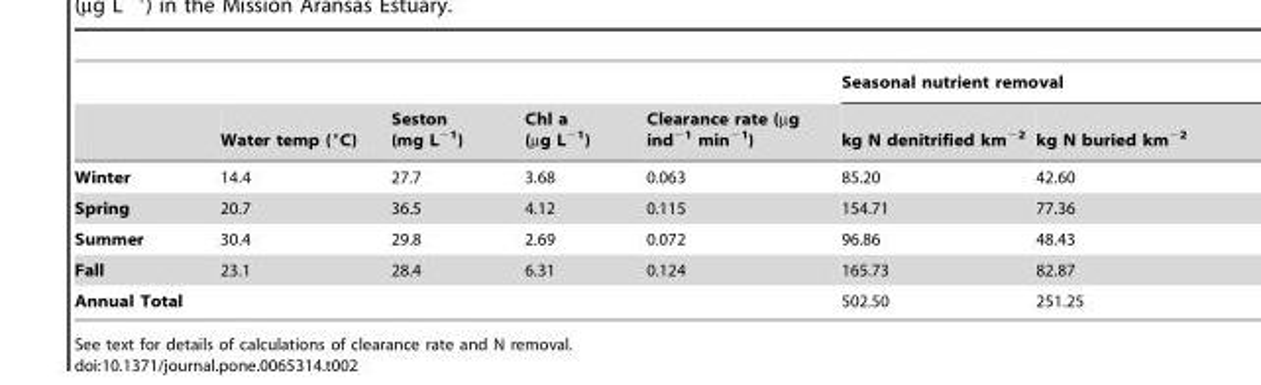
<table><thead><tr><td rowspan="2"></td><td rowspan="2">Water temp (°C)</td><td rowspan="2">Seston (mg L<sup>−1</sup>)</td><td rowspan="2">Chl a (µg L<sup>−1</sup>)</td><td rowspan="2">Clearance rate (µg ind<sup>−1</sup> min<sup>−1</sup>)</td><td colspan="2">Seasonal nutrient removal</td></tr><tr><td>kg N denitrified km<sup>−2</sup></td><td>kg N buried km<sup>−2</sup></td></tr></thead><tbody><tr><td>Winter</td><td>14.4</td><td>27.7</td><td>3.68</td><td>0.063</td><td>85.20</td><td>42.60</td></tr><tr><td>Spring</td><td>20.7</td><td>36.5</td><td>4.12</td><td>0.115</td><td>154.71</td><td>77.36</td></tr><tr><td>Summer</td><td>30.4</td><td>29.8</td><td>2.69</td><td>0.072</td><td>96.86</td><td>48.43</td></tr><tr><td>Fall</td><td>23.1</td><td>28.4</td><td>6.31</td><td>0.124</td><td>165.73</td><td>82.87</td></tr><tr><td colspan="5">Annual Total</td><td>502.50</td><td>251.25</td></tr></tbody></table>